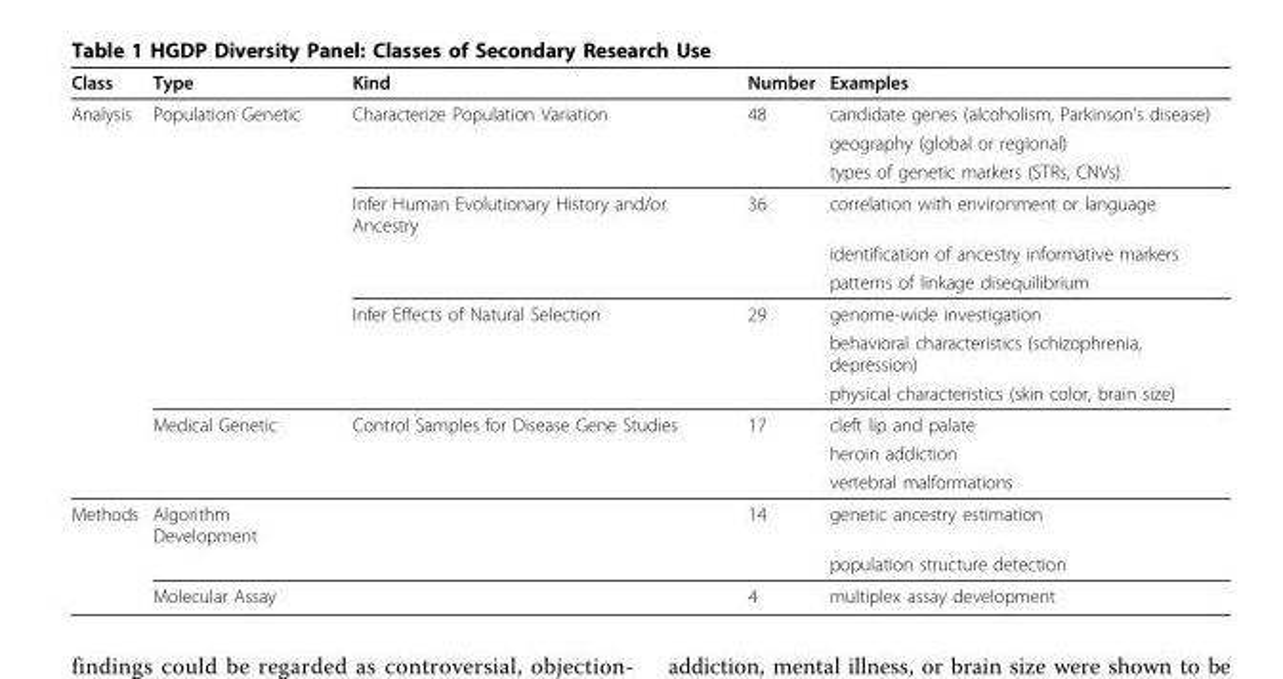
<table><thead><tr><td>Class</td><td>Type</td><td>Kind</td><td>Number</td><td>Examples</td></tr></thead><tbody><tr><td rowspan="12">Analysis</td><td>Population Genetic</td><td>Characterize Population Variation</td><td>48</td><td>candidate genes (alcoholism, Parkinson’s disease)</td></tr><tr><td></td><td></td><td></td><td>geography (global or regional)</td></tr><tr><td></td><td></td><td></td><td>types of genetic markers (STRs, CNVs)</td></tr><tr><td></td><td>Infer Human Evolutionary History and/or Ancestry</td><td>36</td><td>correlation with environment or language</td></tr><tr><td></td><td></td><td></td><td>identification of ancestry informative markers</td></tr><tr><td></td><td></td><td></td><td>patterns of linkage disequilibrium</td></tr><tr><td></td><td>Infer Effects of Natural Selection</td><td>29</td><td>genome-wide investigation</td></tr><tr><td></td><td></td><td></td><td>behavioral characteristics (schizophrenia, depression)</td></tr><tr><td></td><td></td><td></td><td>physical characteristics (skin color, brain size)</td></tr><tr><td>Medical Genetic</td><td>Control Samples for Disease Gene Studies</td><td>17</td><td>cleft lip and palate</td></tr><tr><td></td><td></td><td></td><td>heroin addiction</td></tr><tr><td></td><td></td><td></td><td>vertebral malformations</td></tr><tr><td rowspan="3">Methods</td><td>Algorithm Development</td><td></td><td>14</td><td>genetic ancestry estimation</td></tr><tr><td></td><td></td><td></td><td>population structure detection</td></tr><tr><td>Molecular Assay</td><td></td><td>4</td><td>multiplex assay development</td></tr></tbody></table>